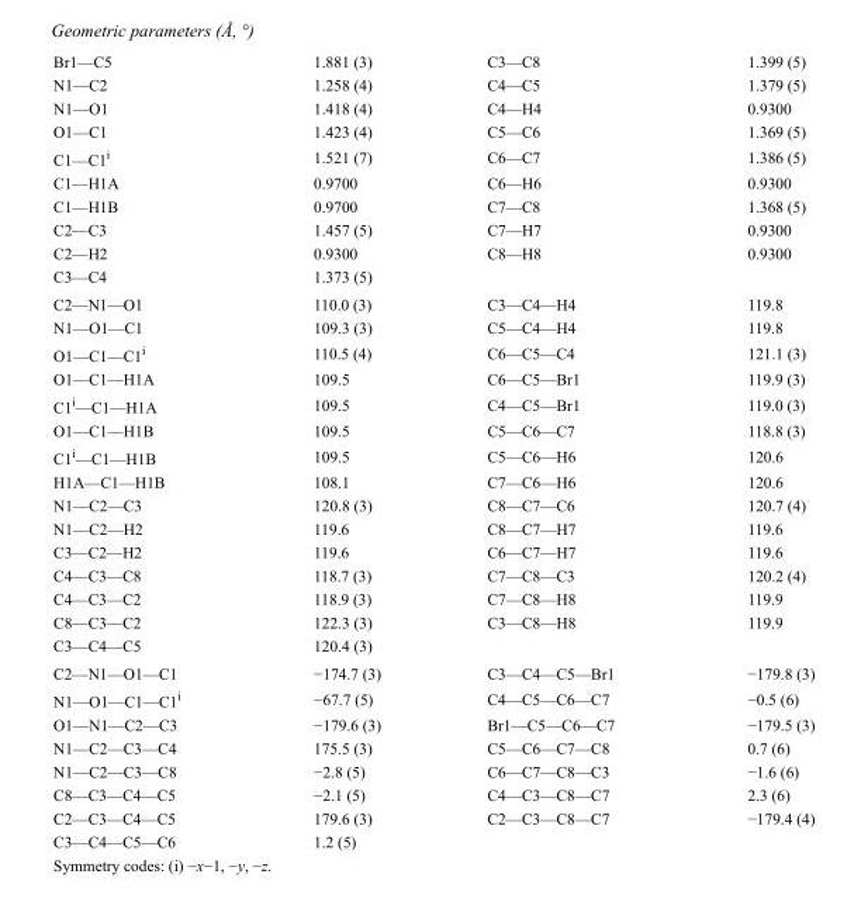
<table><tbody><tr><td>Br1—C5</td><td>1.881 (3)</td><td>C3—C8</td><td>1.399 (5)</td></tr><tr><td>N1—C2</td><td>1.258 (4)</td><td>C4—C5</td><td>1.379 (5)</td></tr><tr><td>N1—O1</td><td>1.418 (4)</td><td>C4—H4</td><td>0.9300</td></tr><tr><td>O1—C1</td><td>1.423 (4)</td><td>C5—C6</td><td>1.369 (5)</td></tr><tr><td>C1—C1<sup>i</sup></td><td>1.521 (7)</td><td>C6—C7</td><td>1.386 (5)</td></tr><tr><td>C1—H1A</td><td>0.9700</td><td>C6—H6</td><td>0.9300</td></tr><tr><td>C1—H1B</td><td>0.9700</td><td>C7—C8</td><td>1.368 (5)</td></tr><tr><td>C2—C3</td><td>1.457 (5)</td><td>C7—H7</td><td>0.9300</td></tr><tr><td>C2—H2</td><td>0.9300</td><td>C8—H8</td><td>0.9300</td></tr><tr><td>C3—C4</td><td>1.373 (5)</td><td></td><td></td></tr><tr><td>C2—N1—O1</td><td>110.0 (3)</td><td>C3—C4—H4</td><td>119.8</td></tr><tr><td>N1—O1—C1</td><td>109.3 (3)</td><td>C5—C4—H4</td><td>119.8</td></tr><tr><td>O1—C1—C1<sup>i</sup></td><td>110.5 (4)</td><td>C6—C5—C4</td><td>121.1 (3)</td></tr><tr><td>O1—C1—H1A</td><td>109.5</td><td>C6—C5—Br1</td><td>119.9 (3)</td></tr><tr><td>C1<sup>i</sup>—C1—H1A</td><td>109.5</td><td>C4—C5—Br1</td><td>119.0 (3)</td></tr><tr><td>O1—C1—H1B</td><td>109.5</td><td>C5—C6—C7</td><td>118.8 (3)</td></tr><tr><td>C1<sup>i</sup>—C1—H1B</td><td>109.5</td><td>C5—C6—H6</td><td>120.6</td></tr><tr><td>H1A—C1—H1B</td><td>108.1</td><td>C7—C6—H6</td><td>120.6</td></tr><tr><td>N1—C2—C3</td><td>120.8 (3)</td><td>C8—C7—C6</td><td>120.7 (4)</td></tr><tr><td>N1—C2—H2</td><td>119.6</td><td>C8—C7—H7</td><td>119.6</td></tr><tr><td>C3—C2—H2</td><td>119.6</td><td>C6—C7—H7</td><td>119.6</td></tr><tr><td>C4—C3—C8</td><td>118.7 (3)</td><td>C7—C8—C3</td><td>120.2 (4)</td></tr><tr><td>C4—C3—C2</td><td>118.9 (3)</td><td>C7—C8—H8</td><td>119.9</td></tr><tr><td>C8—C3—C2</td><td>122.3 (3)</td><td>C3—C8—H8</td><td>119.9</td></tr><tr><td>C3—C4—C5</td><td>120.4 (3)</td><td></td><td></td></tr><tr><td>C2—N1—O1—C1</td><td>−174.7 (3)</td><td>C3—C4—C5—Br1</td><td>−179.8 (3)</td></tr><tr><td>N1—O1—C1—C1<sup>i</sup></td><td>−67.7 (5)</td><td>C4—C5—C6—C7</td><td>−0.5 (6)</td></tr><tr><td>O1—N1—C2—C3</td><td>−179.6 (3)</td><td>Br1—C5—C6—C7</td><td>−179.5 (3)</td></tr><tr><td>N1—C2—C3—C4</td><td>175.5 (3)</td><td>C5—C6—C7—C8</td><td>0.7 (6)</td></tr><tr><td>N1—C2—C3—C8</td><td>−2.8 (5)</td><td>C6—C7—C8—C3</td><td>−1.6 (6)</td></tr><tr><td>C8—C3—C4—C5</td><td>−2.1 (5)</td><td>C4—C3—C8—C7</td><td>2.3 (6)</td></tr><tr><td>C2—C3—C4—C5</td><td>179.6 (3)</td><td>C2—C3—C8—C7</td><td>−179.4 (4)</td></tr><tr><td>C3—C4—C5—C6</td><td>1.2 (5)</td><td></td><td></td></tr></tbody></table>